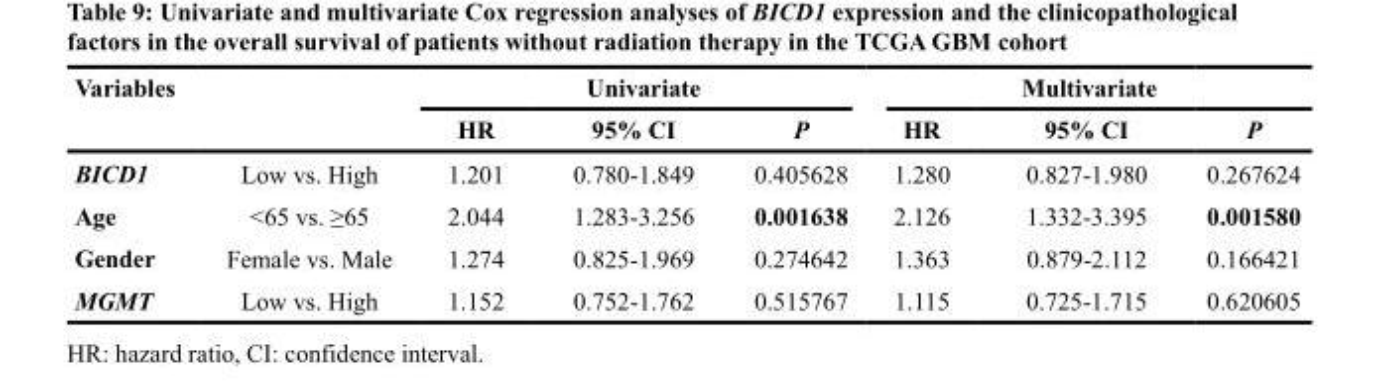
<table><thead><tr><td rowspan="2">Variables</td><td rowspan="2"></td><td colspan="3">Univariate</td><td colspan="3">Multivariate</td></tr><tr><td>HR</td><td>95% CI</td><td>P</td><td>HR</td><td>95% CI</td><td>P</td></tr></thead><tbody><tr><td>BICD1</td><td>Low vs. High</td><td>1.201</td><td>0.780-1.849</td><td>0.405628</td><td>1.280</td><td>0.827-1.980</td><td>0.267624</td></tr><tr><td>Age</td><td>&lt;65 vs. ≥65</td><td>2.044</td><td>1.283-3.256</td><td>0.001638</td><td>2.126</td><td>1.332-3.395</td><td>0.001580</td></tr><tr><td>Gender</td><td>Female vs. Male</td><td>1.274</td><td>0.825-1.969</td><td>0.274642</td><td>1.363</td><td>0.879-2.112</td><td>0.166421</td></tr><tr><td>MGMT</td><td>Low vs. High</td><td>1.152</td><td>0.752-1.762</td><td>0.515767</td><td>1.115</td><td>0.725-1.715</td><td>0.620605</td></tr></tbody></table>